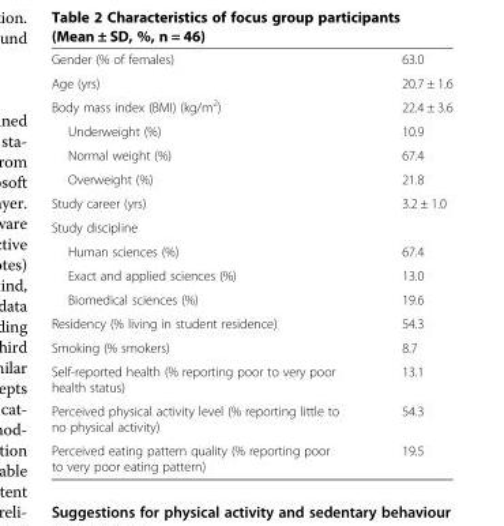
<table><tbody><tr><td>Gender (% of females)</td><td>63.0</td></tr><tr><td>Age (yrs)</td><td>20.7 ± 1.6</td></tr><tr><td>Body mass index (BMI) (kg/m<sup>2</sup>)</td><td>22.4 ± 3.6</td></tr><tr><td>Underweight (%)</td><td>10.9</td></tr><tr><td>Normal weight (%)</td><td>67.4</td></tr><tr><td>Overweight (%)</td><td>21.8</td></tr><tr><td>Study career (yrs)</td><td>3.2 ± 1.0</td></tr><tr><td colspan="2">Study discipline</td></tr><tr><td>Human sciences (%)</td><td>67.4</td></tr><tr><td>Exact and applied sciences (%)</td><td>13.0</td></tr><tr><td>Biomedical sciences (%)</td><td>19.6</td></tr><tr><td>Residency (% living in student residence)</td><td>54.3</td></tr><tr><td>Smoking (% smokers)</td><td>8.7</td></tr><tr><td>Self-reported health (% reporting poor to very poor health status)</td><td>13.1</td></tr><tr><td>Perceived physical activity level (% reporting little to no physical activity)</td><td>54.3</td></tr><tr><td>Perceived eating pattern quality (% reporting poor to very poor eating pattern)</td><td>19.5</td></tr></tbody></table>